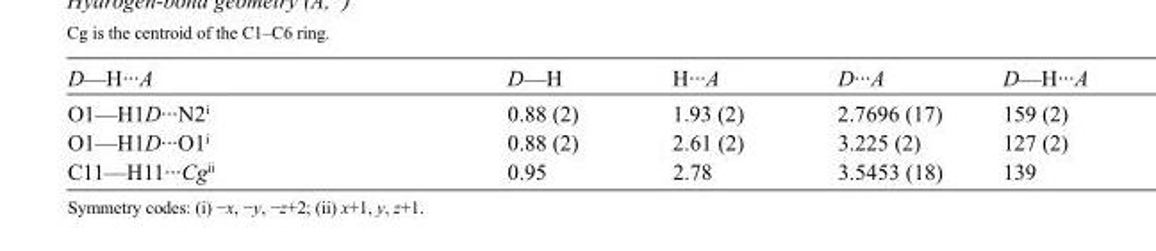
<table><tbody><tr><td>D—H···A</td><td>D—H</td><td>H···A</td><td>D···A</td><td>D—H···A</td></tr><tr><td>O1—H1D···N2<sup>i</sup></td><td>0.88 (2)</td><td>1.93 (2)</td><td>2.7696 (17)</td><td>159 (2)</td></tr><tr><td>O1—H1D···O1<sup>i</sup></td><td>0.88 (2)</td><td>2.61 (2)</td><td>3.225 (2)</td><td>127 (2)</td></tr><tr><td>C11—H11···Cg<sup>ii</sup></td><td>0.95</td><td>2.78</td><td>3.5453 (18)</td><td>139</td></tr></tbody></table>